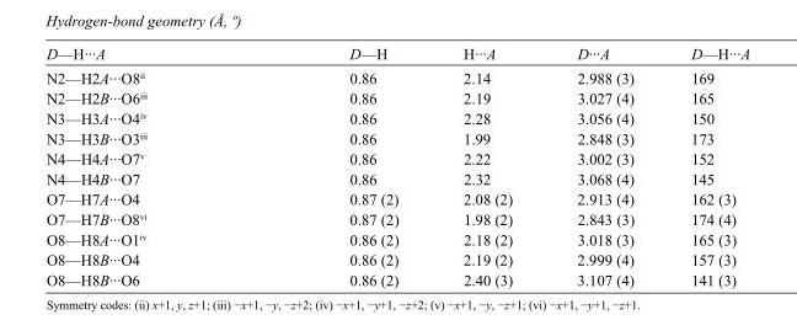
<table><tbody><tr><td>D—H···A</td><td>D—H</td><td>H···A</td><td>D···A</td><td>D—H···A</td></tr><tr><td>N2—H2A···O8<sup>ii</sup></td><td>0.86</td><td>2.14</td><td>2.988 (3)</td><td>169</td></tr><tr><td>N2—H2B···O6<sup>iii</sup></td><td>0.86</td><td>2.19</td><td>3.027 (4)</td><td>165</td></tr><tr><td>N3—H3A···O4<sup>iv</sup></td><td>0.86</td><td>2.28</td><td>3.056 (4)</td><td>150</td></tr><tr><td>N3—H3B···O3<sup>iii</sup></td><td>0.86</td><td>1.99</td><td>2.848 (3)</td><td>173</td></tr><tr><td>N4—H4A···O7<sup>v</sup></td><td>0.86</td><td>2.22</td><td>3.002 (3)</td><td>152</td></tr><tr><td>N4—H4B···O7</td><td>0.86</td><td>2.32</td><td>3.068 (4)</td><td>145</td></tr><tr><td>O7—H7A···O4</td><td>0.87 (2)</td><td>2.08 (2)</td><td>2.913 (4)</td><td>162 (3)</td></tr><tr><td>O7—H7B···O8<sup>vi</sup></td><td>0.87 (2)</td><td>1.98 (2)</td><td>2.843 (3)</td><td>174 (4)</td></tr><tr><td>O8—H8A···O1<sup>iv</sup></td><td>0.86 (2)</td><td>2.18 (2)</td><td>3.018 (3)</td><td>165 (3)</td></tr><tr><td>O8—H8B···O4</td><td>0.86 (2)</td><td>2.19 (2)</td><td>2.999 (4)</td><td>157 (3)</td></tr><tr><td>O8—H8B···O6</td><td>0.86 (2)</td><td>2.40 (3)</td><td>3.107 (4)</td><td>141 (3)</td></tr></tbody></table>